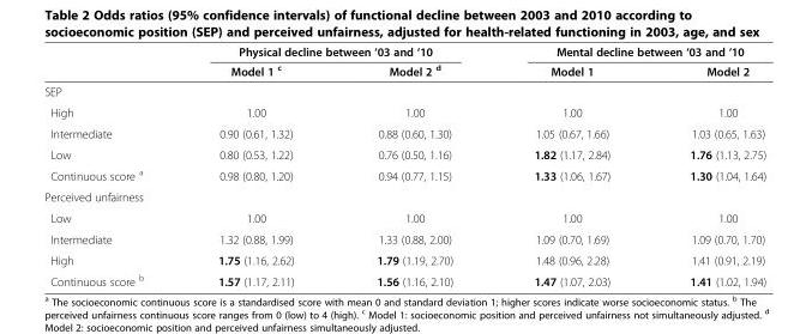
<table><thead><tr><td rowspan="2"></td><td colspan="2">Physical decline between ‘03 and ‘10</td><td colspan="2">Mental decline between ‘03 and ‘10</td></tr><tr><td>Model 1 <sup>c</sup></td><td>Model 2 <sup>d</sup></td><td>Model 1</td><td>Model 2</td></tr></thead><tbody><tr><td colspan="5">SEP</td></tr><tr><td>High</td><td>1.00</td><td>1.00</td><td>1.00</td><td>1.00</td></tr><tr><td>Intermediate</td><td>0.90 (0.61, 1.32)</td><td>0.88 (0.60, 1.30)</td><td>1.05 (0.67, 1.66)</td><td>1.03 (0.65, 1.63)</td></tr><tr><td>Low</td><td>0.80 (0.53, 1.22)</td><td>0.76 (0.50, 1.16)</td><td>1.82 (1.17, 2.84)</td><td>1.76 (1.13, 2.75)</td></tr><tr><td>Continuous score <sup>a</sup></td><td>0.98 (0.80, 1.20)</td><td>0.94 (0.77, 1.15)</td><td>1.33 (1.06, 1.67)</td><td>1.30 (1.04, 1.64)</td></tr><tr><td colspan="5">Perceived unfairness</td></tr><tr><td>Low</td><td>1.00</td><td>1.00</td><td>1.00</td><td>1.00</td></tr><tr><td>Intermediate</td><td>1.32 (0.88, 1.99)</td><td>1.33 (0.88, 2.00)</td><td>1.09 (0.70, 1.69)</td><td>1.09 (0.70, 1.70)</td></tr><tr><td>High</td><td>1.75 (1.16, 2.62)</td><td>1.79 (1.19, 2.70)</td><td>1.48 (0.96, 2.28)</td><td>1.41 (0.91, 2.19)</td></tr><tr><td>Continuous score <sup>b</sup></td><td>1.57 (1.17, 2.11)</td><td>1.56 (1.16, 2.10)</td><td>1.47 (1.07, 2.03)</td><td>1.41 (1.02, 1.94)</td></tr></tbody></table>